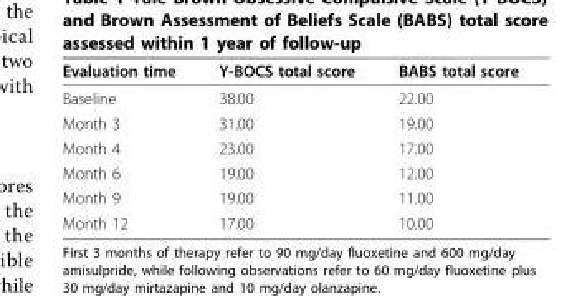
<table><thead><tr><td>Evaluation time</td><td>Y-BOCS total score</td><td>BABS total score</td></tr></thead><tbody><tr><td>Baseline</td><td>38.00</td><td>22.00</td></tr><tr><td>Month 3</td><td>31.00</td><td>19.00</td></tr><tr><td>Month 4</td><td>23.00</td><td>17.00</td></tr><tr><td>Month 6</td><td>19.00</td><td>12.00</td></tr><tr><td>Month 9</td><td>19.00</td><td>11.00</td></tr><tr><td>Month 12</td><td>17.00</td><td>10.00</td></tr></tbody></table>